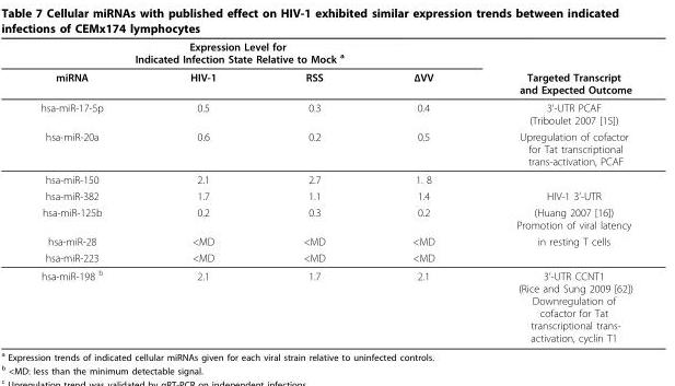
<table><thead><tr><td colspan="4">Expression Level for Indicated Infection State Relative to Mock <sup>a</sup></td><td rowspan="2">Targeted Transcript and Expected Outcome</td></tr><tr><td>miRNA</td><td>HIV-1</td><td>RSS</td><td>ΔVV</td></tr></thead><tbody><tr><td>hsa-miR-17-5p</td><td>0.5</td><td>0.3</td><td>0.4</td><td>3’-UTR PCAF (Triboulet 2007 [15])</td></tr><tr><td>hsa-miR-20a</td><td>0.6</td><td>0.2</td><td>0.5</td><td>Upregulation of cofactor for Tat transcriptional trans-activation, PCAF</td></tr><tr><td>hsa-miR-150</td><td>2.1</td><td>2.7</td><td>1. 8</td><td></td></tr><tr><td>hsa-miR-382</td><td>1.7</td><td>1.1</td><td>1.4</td><td>HIV-1 3’-UTR</td></tr><tr><td>hsa-miR-125b</td><td>0.2</td><td>0.3</td><td>0.2</td><td>(Huang 2007 [16]) Promotion of viral latency</td></tr><tr><td>hsa-miR-28</td><td>&lt;MD</td><td>&lt;MD</td><td>&lt;MD</td><td>in resting T cells</td></tr><tr><td>hsa-miR-223</td><td>&lt;MD</td><td>&lt;MD</td><td>&lt;MD</td><td></td></tr><tr><td>hsa-miR-198 <sup>b</sup></td><td>2.1</td><td>1.7</td><td>2.1</td><td>3’-UTR CCNT1 (Rice and Sung 2009 [62]) Downregulation of cofactor for Tat transcriptional trans- activation, cyclin T1</td></tr></tbody></table>